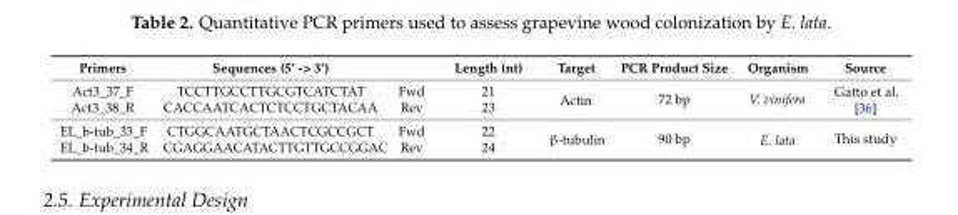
<table><thead><tr><td>Primers</td><td>Sequences (5’ -&gt; 3’)</td><td></td><td>Length (nt)</td><td>Target</td><td>PCR Product Size</td><td>Organism</td><td>Source</td></tr></thead><tbody><tr><td>Act3_37_F</td><td>TCCTTGCCTTGCGTCATCTAT</td><td>Fwd</td><td>21</td><td rowspan="2">Actin</td><td rowspan="2">72 bp</td><td rowspan="2">V. vinifera</td><td rowspan="2">Gatto et al. [36]</td></tr><tr><td>Act3_38_R</td><td>CACCAATCACTCTCCTGCTACAA</td><td>Rev</td><td>23</td></tr><tr><td>EL_b-tub_33_F</td><td>CTGGCAATGCTAACTCGCCGCT</td><td>Fwd</td><td>22</td><td rowspan="2">β-tubulin</td><td rowspan="2">90 bp</td><td rowspan="2">E. lata</td><td rowspan="2">This study</td></tr><tr><td>EL_b-tub_34_R</td><td>CGAGGAACATACTTGTTGCCGGAC</td><td>Rev</td><td>24</td></tr></tbody></table>